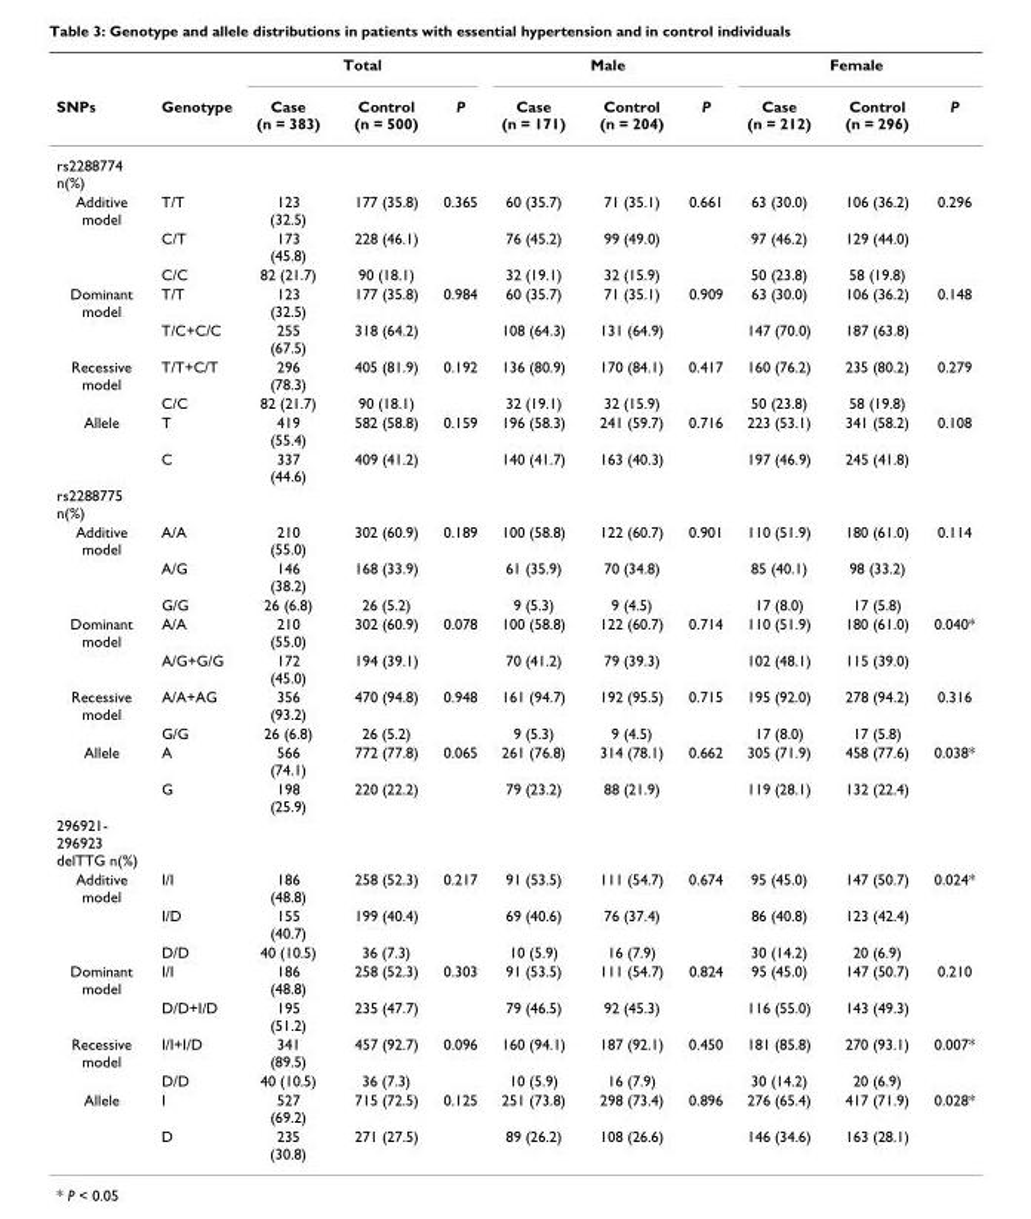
<table><thead><tr><td rowspan="2">SNPs</td><td rowspan="2">Genotype</td><td colspan="3">Total</td><td colspan="3">Male</td><td colspan="3">Female</td></tr><tr><td>Case (n = 383)</td><td>Control (n = 500)</td><td>P</td><td>Case (n = 171)</td><td>Control (n = 204)</td><td>P</td><td>Case (n = 212)</td><td>Control (n = 296)</td><td>P</td></tr></thead><tbody><tr><td colspan="11">rs2288774 n(%)</td></tr><tr><td rowspan="3">Additive model</td><td>T/T</td><td>123 (32.5)</td><td>177 (35.8)</td><td>0.365</td><td>60 (35.7)</td><td>71 (35.1)</td><td>0.661</td><td>63 (30.0)</td><td>106 (36.2)</td><td>0.296</td></tr><tr><td>C/T</td><td>173 (45.8)</td><td>228 (46.1)</td><td></td><td>76 (45.2)</td><td>99 (49.0)</td><td></td><td>97 (46.2)</td><td>129 (44.0)</td><td></td></tr><tr><td>C/C</td><td>82 (21.7)</td><td>90 (18.1)</td><td></td><td>32 (19.1)</td><td>32 (15.9)</td><td></td><td>50 (23.8)</td><td>58 (19.8)</td><td></td></tr><tr><td rowspan="2">Dominant model</td><td>T/T</td><td>123 (32.5)</td><td>177 (35.8)</td><td>0.984</td><td>60 (35.7)</td><td>71 (35.1)</td><td>0.909</td><td>63 (30.0)</td><td>106 (36.2)</td><td>0.148</td></tr><tr><td>T/C+C/C</td><td>255 (67.5)</td><td>318 (64.2)</td><td></td><td>108 (64.3)</td><td>131 (64.9)</td><td></td><td>147 (70.0)</td><td>187 (63.8)</td><td></td></tr><tr><td rowspan="2">Recessive model</td><td>T/T+C/T</td><td>296 (78.3)</td><td>405 (81.9)</td><td>0.192</td><td>136 (80.9)</td><td>170 (84.1)</td><td>0.417</td><td>160 (76.2)</td><td>235 (80.2)</td><td>0.279</td></tr><tr><td>C/C</td><td>82 (21.7)</td><td>90 (18.1)</td><td></td><td>32 (19.1)</td><td>32 (15.9)</td><td></td><td>50 (23.8)</td><td>58 (19.8)</td><td></td></tr><tr><td rowspan="2">Allele</td><td>T</td><td>419 (55.4)</td><td>582 (58.8)</td><td>0.159</td><td>196 (58.3)</td><td>241 (59.7)</td><td>0.716</td><td>223 (53.1)</td><td>341 (58.2)</td><td>0.108</td></tr><tr><td>C</td><td>337 (44.6)</td><td>409 (41.2)</td><td></td><td>140 (41.7)</td><td>163 (40.3)</td><td></td><td>197 (46.9)</td><td>245 (41.8)</td><td></td></tr><tr><td colspan="11">rs2288775 n(%)</td></tr><tr><td rowspan="3">Additive model</td><td>A/A</td><td>210 (55.0)</td><td>302 (60.9)</td><td>0.189</td><td>100 (58.8)</td><td>122 (60.7)</td><td>0.901</td><td>110 (51.9)</td><td>180 (61.0)</td><td>0.114</td></tr><tr><td>A/G</td><td>146 (38.2)</td><td>168 (33.9)</td><td></td><td>61 (35.9)</td><td>70 (34.8)</td><td></td><td>85 (40.1)</td><td>98 (33.2)</td><td></td></tr><tr><td>G/G</td><td>26 (6.8)</td><td>26 (5.2)</td><td></td><td>9 (5.3)</td><td>9 (4.5)</td><td></td><td>17 (8.0)</td><td>17 (5.8)</td><td></td></tr><tr><td rowspan="2">Dominant model</td><td>A/A</td><td>210 (55.0)</td><td>302 (60.9)</td><td>0.078</td><td>100 (58.8)</td><td>122 (60.7)</td><td>0.714</td><td>110 (51.9)</td><td>180 (61.0)</td><td>0.040*</td></tr><tr><td>A/G+G/G</td><td>172 (45.0)</td><td>194 (39.1)</td><td></td><td>70 (41.2)</td><td>79 (39.3)</td><td></td><td>102 (48.1)</td><td>115 (39.0)</td><td></td></tr><tr><td rowspan="2">Recessive model</td><td>A/A+AG</td><td>356 (93.2)</td><td>470 (94.8)</td><td>0.948</td><td>161 (94.7)</td><td>192 (95.5)</td><td>0.715</td><td>195 (92.0)</td><td>278 (94.2)</td><td>0.316</td></tr><tr><td>G/G</td><td>26 (6.8)</td><td>26 (5.2)</td><td></td><td>9 (5.3)</td><td>9 (4.5)</td><td></td><td>17 (8.0)</td><td>17 (5.8)</td><td></td></tr><tr><td rowspan="2">Allele</td><td>A</td><td>566 (74.1)</td><td>772 (77.8)</td><td>0.065</td><td>261 (76.8)</td><td>314 (78.1)</td><td>0.662</td><td>305 (71.9)</td><td>458 (77.6)</td><td>0.038*</td></tr><tr><td>G</td><td>198 (25.9)</td><td>220 (22.2)</td><td></td><td>79 (23.2)</td><td>88 (21.9)</td><td></td><td>119 (28.1)</td><td>132 (22.4)</td><td></td></tr><tr><td colspan="11">296921- 296923 delTTG n(%)</td></tr><tr><td rowspan="3">Additive model</td><td>I/I</td><td>186 (48.8)</td><td>258 (52.3)</td><td>0.217</td><td>91 (53.5)</td><td>111 (54.7)</td><td>0.674</td><td>95 (45.0)</td><td>147 (50.7)</td><td>0.024*</td></tr><tr><td>I/D</td><td>155 (40.7)</td><td>199 (40.4)</td><td></td><td>69 (40.6)</td><td>76 (37.4)</td><td></td><td>86 (40.8)</td><td>123 (42.4)</td><td></td></tr><tr><td>D/D</td><td>40 (10.5)</td><td>36 (7.3)</td><td></td><td>10 (5.9)</td><td>16 (7.9)</td><td></td><td>30 (14.2)</td><td>20 (6.9)</td><td></td></tr><tr><td rowspan="2">Dominant model</td><td>I/I</td><td>186 (48.8)</td><td>258 (52.3)</td><td>0.303</td><td>91 (53.5)</td><td>111 (54.7)</td><td>0.824</td><td>95 (45.0)</td><td>147 (50.7)</td><td>0.210</td></tr><tr><td>D/D+I/D</td><td>195 (51.2)</td><td>235 (47.7)</td><td></td><td>79 (46.5)</td><td>92 (45.3)</td><td></td><td>116 (55.0)</td><td>143 (49.3)</td><td></td></tr><tr><td rowspan="2">Recessive model</td><td>I/I+I/D</td><td>341 (89.5)</td><td>457 (92.7)</td><td>0.096</td><td>160 (94.1)</td><td>187 (92.1)</td><td>0.450</td><td>181 (85.8)</td><td>270 (93.1)</td><td>0.007*</td></tr><tr><td>D/D</td><td>40 (10.5)</td><td>36 (7.3)</td><td></td><td>10 (5.9)</td><td>16 (7.9)</td><td></td><td>30 (14.2)</td><td>20 (6.9)</td><td></td></tr><tr><td rowspan="2">Allele</td><td>I</td><td>527 (69.2)</td><td>715 (72.5)</td><td>0.125</td><td>251 (73.8)</td><td>298 (73.4)</td><td>0.896</td><td>276 (65.4)</td><td>417 (71.9)</td><td>0.028*</td></tr><tr><td>D</td><td>235 (30.8)</td><td>271 (27.5)</td><td></td><td>89 (26.2)</td><td>108 (26.6)</td><td></td><td>146 (34.6)</td><td>163 (28.1)</td><td></td></tr></tbody></table>